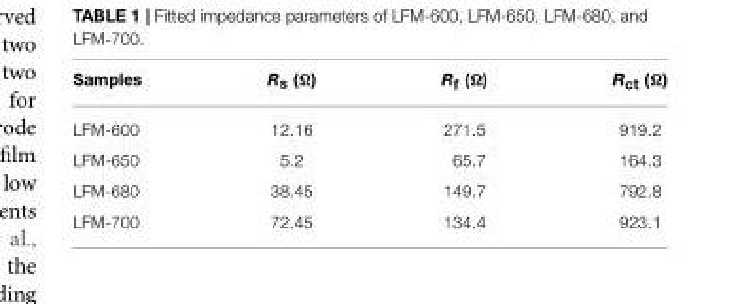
<table><thead><tr><td>Samples</td><td>R<sub>s</sub> (Ω)</td><td>R<sub>f</sub> (Ω)</td><td>R<sub>ct</sub> (Ω)</td></tr></thead><tbody><tr><td>LFM-600</td><td>12.16</td><td>271.5</td><td>919.2</td></tr><tr><td>LFM-650</td><td>5.2</td><td>65.7</td><td>164.3</td></tr><tr><td>LFM-680</td><td>38.45</td><td>149.7</td><td>792.8</td></tr><tr><td>LFM-700</td><td>72.45</td><td>134.4</td><td>923.1</td></tr></tbody></table>